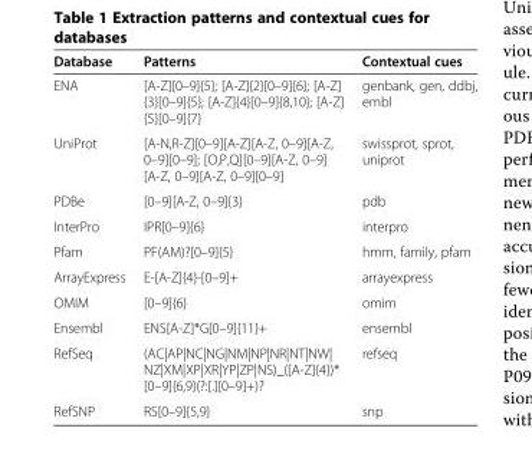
<table><thead><tr><td>Database</td><td>Patterns</td><td>Contextual cues</td></tr></thead><tbody><tr><td>ENA</td><td>[A-Z][0–9]{5}; [A-Z]{2}[0–9]{6}; [A-Z] {3}[0–9]{5}; [A-Z]{4}[0–9]{8,10}; [A-Z] {5}[0–9]{7}</td><td>genbank, gen, ddbj, embl</td></tr><tr><td>UniProt</td><td>[A-N,R-Z][0–9][A-Z][A-Z, 0–9][A-Z, 0–9][0–9]; [O,P,Q][0–9][A-Z, 0–9] [A-Z, 0–9][A-Z, 0–9][0–9]</td><td>swissprot, sprot, uniprot</td></tr><tr><td>PDBe</td><td>[0–9][A-Z, 0–9]{3}</td><td>pdb</td></tr><tr><td>InterPro</td><td>IPR[0–9]{6}</td><td>interpro</td></tr><tr><td>Pfam</td><td>PF(AM)?[0–9]{5}</td><td>hmm, family, pfam</td></tr><tr><td>ArrayExpress</td><td>E-[A-Z]{4}-[0–9]+</td><td>arrayexpress</td></tr><tr><td>OMIM</td><td>[0–9]{6}</td><td>omim</td></tr><tr><td>Ensembl</td><td>ENS[A-Z]*G[0–9]{11}+</td><td>ensembl</td></tr><tr><td>RefSeq</td><td>(AC|AP|NC|NG|NM|NP|NR|NT|NW| NZ|XM|XP|XR|YP|ZP|NS)_([A-Z]{4})* [0–9]{6,9}(?:[.][0–9]+)?</td><td>refseq</td></tr><tr><td>RefSNP</td><td>RS[0–9]{5,9}</td><td>snp</td></tr></tbody></table>